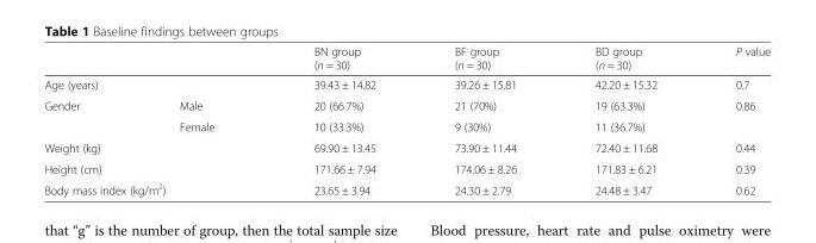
<table><thead><tr><td></td><td></td><td>BN group (n = 30)</td><td>BF group (n = 30)</td><td>BD group (n = 30)</td><td>P value</td></tr></thead><tbody><tr><td colspan="2">Age (years)</td><td>39.43 ± 14.82</td><td>39.26 ± 15.81</td><td>42.20 ± 15.32</td><td>0.7</td></tr><tr><td rowspan="2">Gender</td><td>Male</td><td>20 (66.7%)</td><td>21 (70%)</td><td>19 (63.3%)</td><td rowspan="2">0.86</td></tr><tr><td>Female</td><td>10 (33.3%)</td><td>9 (30%)</td><td>11 (36.7%)</td></tr><tr><td colspan="2">Weight (kg)</td><td>69.90 ± 13.45</td><td>73.90 ± 11.44</td><td>72.40 ± 11.68</td><td>0.44</td></tr><tr><td colspan="2">Height (cm)</td><td>171.66 ± 7.94</td><td>174.06 ± 8.26</td><td>171.83 ± 6.21</td><td>0.39</td></tr><tr><td colspan="2">Body mass index (kg/m<sup>2</sup>)</td><td>23.65 ± 3.94</td><td>24.30 ± 2.79</td><td>24.48 ± 3.47</td><td>0.62</td></tr></tbody></table>